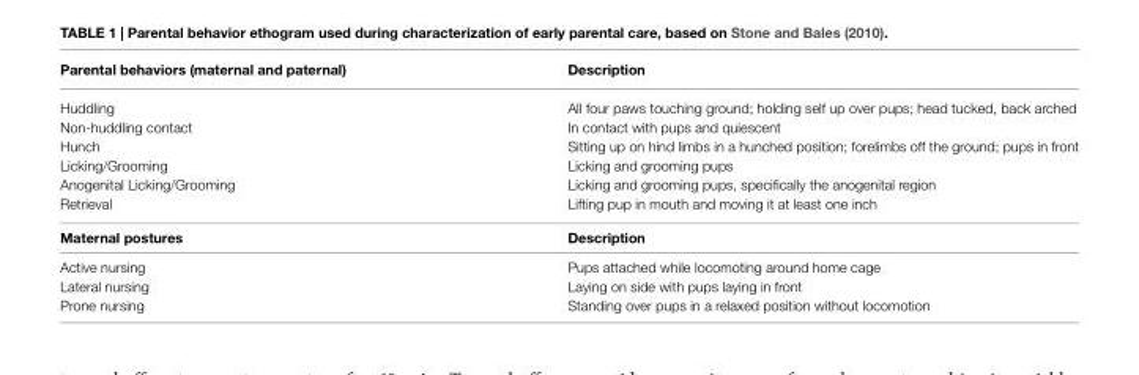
<table><thead><tr><td>Parental behaviors (maternal and paternal)</td><td>Description</td></tr></thead><tbody><tr><td>Huddling</td><td>All four paws touching ground; holding self up over pups; head tucked, back arched</td></tr><tr><td>Non-huddling contact</td><td>In contact with pups and quiescent</td></tr><tr><td>Hunch</td><td>Sitting up on hind limbs in a hunched position; forelimbs off the ground; pups in front</td></tr><tr><td>Licking/Grooming</td><td>Licking and grooming pups</td></tr><tr><td>Anogenital Licking/Grooming</td><td>Licking and grooming pups, specifically the anogenital region</td></tr><tr><td>Retrieval</td><td>Lifting pup in mouth and moving it at least one inch</td></tr><tr><td>Maternal postures</td><td>Description</td></tr><tr><td>Active nursing</td><td>Pups attached while locomoting around home cage</td></tr><tr><td>Lateral nursing</td><td>Laying on side with pups laying in front</td></tr><tr><td>Prone nursing</td><td>Standing over pups in a relaxed position without locomotion</td></tr></tbody></table>